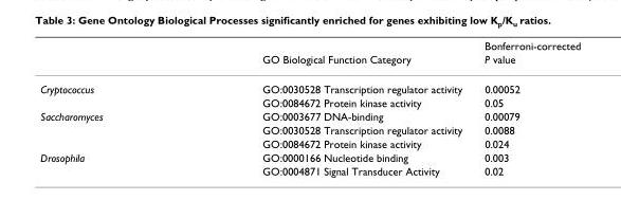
<table><thead><tr><td rowspan="2"></td><td rowspan="2">GO Biological Function Category</td><td rowspan="2">Bonferroni-corrected P value</td></tr><tr></tr></thead><tbody><tr><td rowspan="2">Cryptococcus</td><td>GO:0030528 Transcription regulator activity</td><td>0.00052</td></tr><tr><td>GO:0084672 Protein kinase activity</td><td>0.05</td></tr><tr><td rowspan="3">Saccharomyces</td><td>GO:0003677 DNA-binding</td><td>0.00079</td></tr><tr><td>GO:0030528 Transcription regulator activity</td><td>0.0088</td></tr><tr><td>GO:0084672 Protein kinase activity</td><td>0.024</td></tr><tr><td rowspan="2">Drosophila</td><td>GO:0000166 Nucleotide binding</td><td>0.003</td></tr><tr><td>GO:0004871 Signal Transducer Activity</td><td>0.02</td></tr></tbody></table>